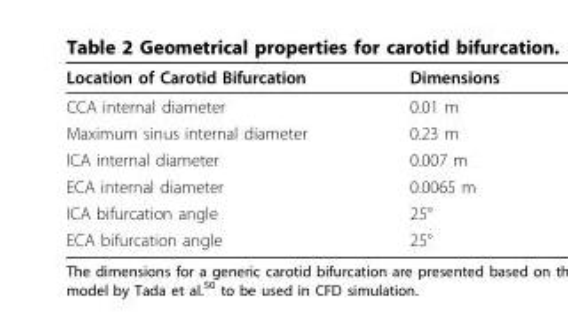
<table><thead><tr><td>Location of Carotid Bifurcation</td><td>Dimensions</td></tr></thead><tbody><tr><td>CCA internal diameter</td><td>0.01 m</td></tr><tr><td>Maximum sinus internal diameter</td><td>0.23 m</td></tr><tr><td>ICA internal diameter</td><td>0.007 m</td></tr><tr><td>ECA internal diameter</td><td>0.0065 m</td></tr><tr><td>ICA bifurcation angle</td><td>25°</td></tr><tr><td>ECA bifurcation angle</td><td>25°</td></tr></tbody></table>